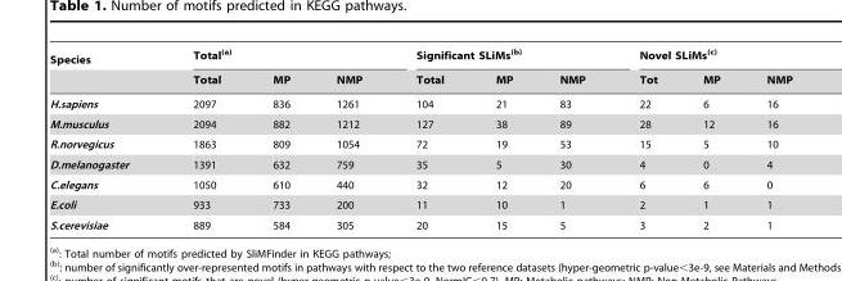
<table><thead><tr><td rowspan="2">Species</td><td colspan="3">Total(a)</td><td colspan="3">Significant SLiMs(b)</td><td colspan="3">Novel SLiMs(c)</td></tr><tr><td>Total</td><td>MP</td><td>NMP</td><td>Total</td><td>MP</td><td>NMP</td><td>Tot</td><td>MP</td><td>NMP</td></tr></thead><tbody><tr><td>H.sapiens</td><td>2097</td><td>836</td><td>1261</td><td>104</td><td>21</td><td>83</td><td>22</td><td>6</td><td>16</td></tr><tr><td>M.musculus</td><td>2094</td><td>882</td><td>1212</td><td>127</td><td>38</td><td>89</td><td>28</td><td>12</td><td>16</td></tr><tr><td>R.norvegicus</td><td>1863</td><td>809</td><td>1054</td><td>72</td><td>19</td><td>53</td><td>15</td><td>5</td><td>10</td></tr><tr><td>D.melanogaster</td><td>1391</td><td>632</td><td>759</td><td>35</td><td>5</td><td>30</td><td>4</td><td>0</td><td>4</td></tr><tr><td>C.elegans</td><td>1050</td><td>610</td><td>440</td><td>32</td><td>12</td><td>20</td><td>6</td><td>6</td><td>0</td></tr><tr><td>E.coli</td><td>933</td><td>733</td><td>200</td><td>11</td><td>10</td><td>1</td><td>2</td><td>1</td><td>1</td></tr><tr><td>S.cerevisiae</td><td>889</td><td>584</td><td>305</td><td>20</td><td>15</td><td>5</td><td>3</td><td>2</td><td>1</td></tr></tbody></table>